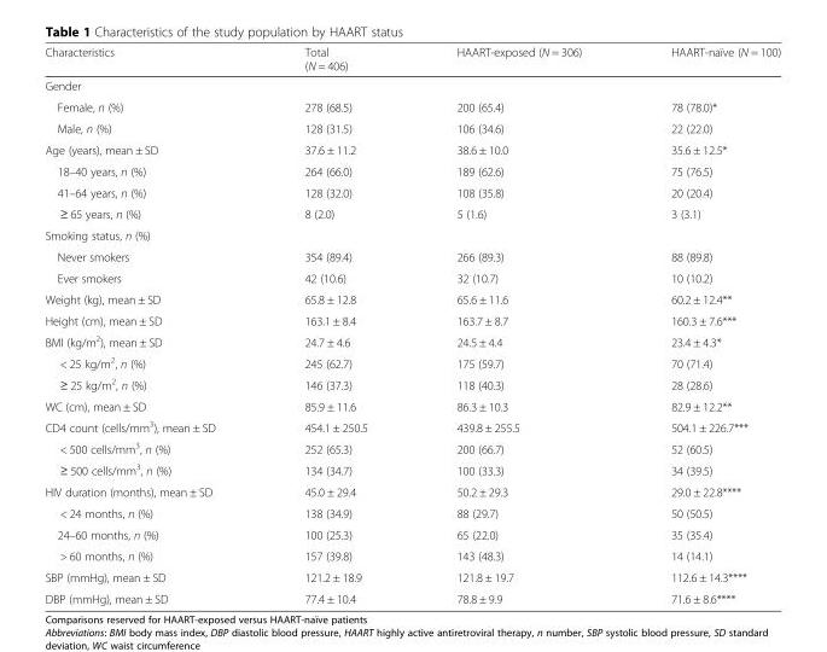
<table><thead><tr><td>Characteristics</td><td>Total (N = 406)</td><td>HAART-exposed (N = 306)</td><td>HAART-naïve (N = 100)</td></tr></thead><tbody><tr><td colspan="4">Gender</td></tr><tr><td>Female, n (%)</td><td>278 (68.5)</td><td>200 (65.4)</td><td>78 (78.0)*</td></tr><tr><td>Male, n (%)</td><td>128 (31.5)</td><td>106 (34.6)</td><td>22 (22.0)</td></tr><tr><td>Age (years), mean ± SD</td><td>37.6 ± 11.2</td><td>38.6 ± 10.0</td><td>35.6 ± 12.5*</td></tr><tr><td>18–40 years, n (%)</td><td>264 (66.0)</td><td>189 (62.6)</td><td>75 (76.5)</td></tr><tr><td>41–64 years, n (%)</td><td>128 (32.0)</td><td>108 (35.8)</td><td>20 (20.4)</td></tr><tr><td>≥ 65 years, n (%)</td><td>8 (2.0)</td><td>5 (1.6)</td><td>3 (3.1)</td></tr><tr><td colspan="4">Smoking status, n (%)</td></tr><tr><td>Never smokers</td><td>354 (89.4)</td><td>266 (89.3)</td><td>88 (89.8)</td></tr><tr><td>Ever smokers</td><td>42 (10.6)</td><td>32 (10.7)</td><td>10 (10.2)</td></tr><tr><td>Weight (kg), mean ± SD</td><td>65.8 ± 12.8</td><td>65.6 ± 11.6</td><td>60.2 ± 12.4**</td></tr><tr><td>Height (cm), mean ± SD</td><td>163.1 ± 8.4</td><td>163.7 ± 8.7</td><td>160.3 ± 7.6***</td></tr><tr><td>BMI (kg/m<sup>2</sup>), mean ± SD</td><td>24.7 ± 4.6</td><td>24.5 ± 4.4</td><td>23.4 ± 4.3*</td></tr><tr><td>&lt; 25 kg/m<sup>2</sup>, n (%)</td><td>245 (62.7)</td><td>175 (59.7)</td><td>70 (71.4)</td></tr><tr><td>≥ 25 kg/m<sup>2</sup>, n (%)</td><td>146 (37.3)</td><td>118 (40.3)</td><td>28 (28.6)</td></tr><tr><td>WC (cm), mean ± SD</td><td>85.9 ± 11.6</td><td>86.3 ± 10.3</td><td>82.9 ± 12.2**</td></tr><tr><td>CD4 count (cells/mm<sup>3</sup>), mean ± SD</td><td>454.1 ± 250.5</td><td>439.8 ± 255.5</td><td>504.1 ± 226.7***</td></tr><tr><td>&lt; 500 cells/mm<sup>3</sup>, n (%)</td><td>252 (65.3)</td><td>200 (66.7)</td><td>52 (60.5)</td></tr><tr><td>≥ 500 cells/mm<sup>3</sup>, n (%)</td><td>134 (34.7)</td><td>100 (33.3)</td><td>34 (39.5)</td></tr><tr><td>HIV duration (months), mean ± SD</td><td>45.0 ± 29.4</td><td>50.2 ± 29.3</td><td>29.0 ± 22.8****</td></tr><tr><td>&lt; 24 months, n (%)</td><td>138 (34.9)</td><td>88 (29.7)</td><td>50 (50.5)</td></tr><tr><td>24–60 months, n (%)</td><td>100 (25.3)</td><td>65 (22.0)</td><td>35 (35.4)</td></tr><tr><td>&gt; 60 months, n (%)</td><td>157 (39.8)</td><td>143 (48.3)</td><td>14 (14.1)</td></tr><tr><td>SBP (mmHg), mean ± SD</td><td>121.2 ± 18.9</td><td>121.8 ± 19.7</td><td>112.6 ± 14.3****</td></tr><tr><td>DBP (mmHg), mean ± SD</td><td>77.4 ± 10.4</td><td>78.8 ± 9.9</td><td>71.6 ± 8.6****</td></tr></tbody></table>